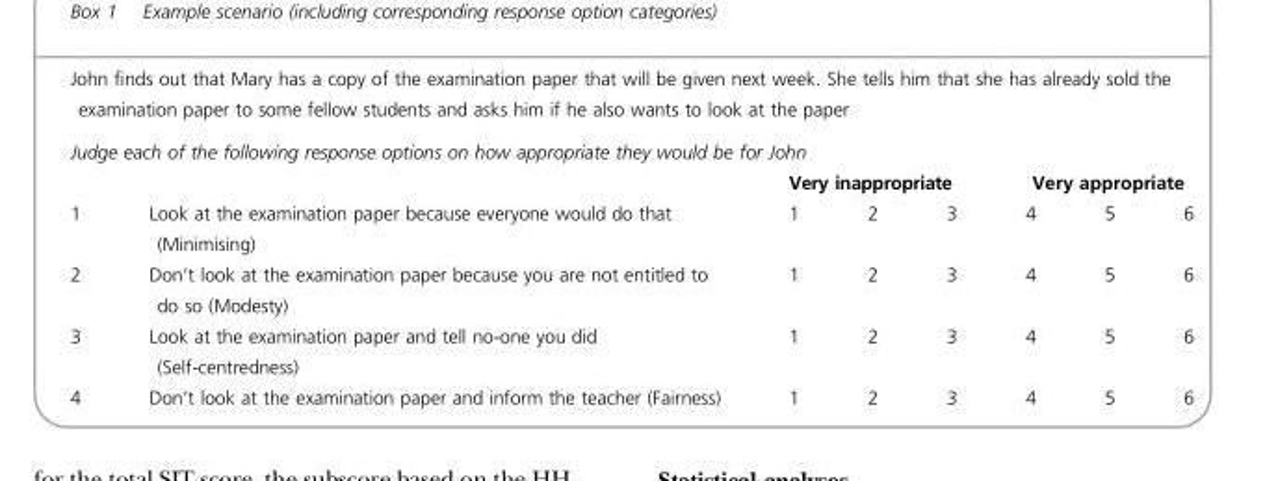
<table><tbody><tr><td colspan="8">John finds out that Mary has a copy of the examination paper that will be given next week. She tells him that she has already sold the examination paper to some fellow students and asks him if he also wants to look at the paper</td></tr><tr><td colspan="8">Judge each of the following response options on how appropriate they would be for John</td></tr><tr><td></td><td></td><td colspan="3">Very inappropriate</td><td colspan="3">Very appropriate</td></tr><tr><td>1</td><td>Look at the examination paper because everyone would do that (Minimising)</td><td>1</td><td>2</td><td>3</td><td>4</td><td>5</td><td>6</td></tr><tr><td>2</td><td>Don’t look at the examination paper because you are not entitled to do so (Modesty)</td><td>1</td><td>2</td><td>3</td><td>4</td><td>5</td><td>6</td></tr><tr><td>3</td><td>Look at the examination paper and tell no-one you did (Self-centredness)</td><td>1</td><td>2</td><td>3</td><td>4</td><td>5</td><td>6</td></tr><tr><td>4</td><td>Don’t look at the examination paper and inform the teacher (Fairness)</td><td>1</td><td>2</td><td>3</td><td>4</td><td>5</td><td>6</td></tr></tbody></table>